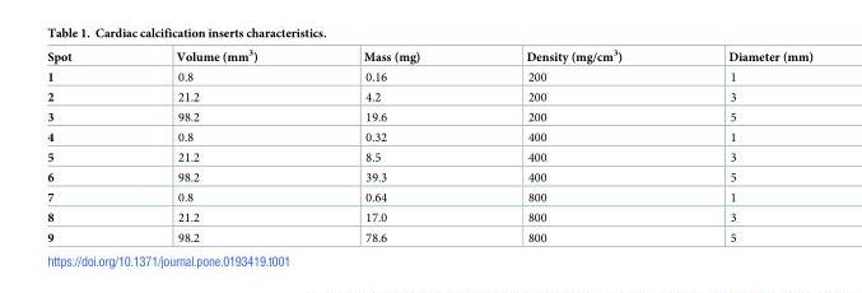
<table><thead><tr><td>Spot</td><td>Volume (mm<sup>3</sup>)</td><td>Mass (mg)</td><td>Density (mg/cm<sup>3</sup>)</td><td>Diameter (mm)</td></tr></thead><tbody><tr><td>1</td><td>0.8</td><td>0.16</td><td>200</td><td>1</td></tr><tr><td>2</td><td>21.2</td><td>4.2</td><td>200</td><td>3</td></tr><tr><td>3</td><td>98.2</td><td>19.6</td><td>200</td><td>5</td></tr><tr><td>4</td><td>0.8</td><td>0.32</td><td>400</td><td>1</td></tr><tr><td>5</td><td>21.2</td><td>8.5</td><td>400</td><td>3</td></tr><tr><td>6</td><td>98.2</td><td>39.3</td><td>400</td><td>5</td></tr><tr><td>7</td><td>0.8</td><td>0.64</td><td>800</td><td>1</td></tr><tr><td>8</td><td>21.2</td><td>17.0</td><td>800</td><td>3</td></tr><tr><td>9</td><td>98.2</td><td>78.6</td><td>800</td><td>5</td></tr></tbody></table>